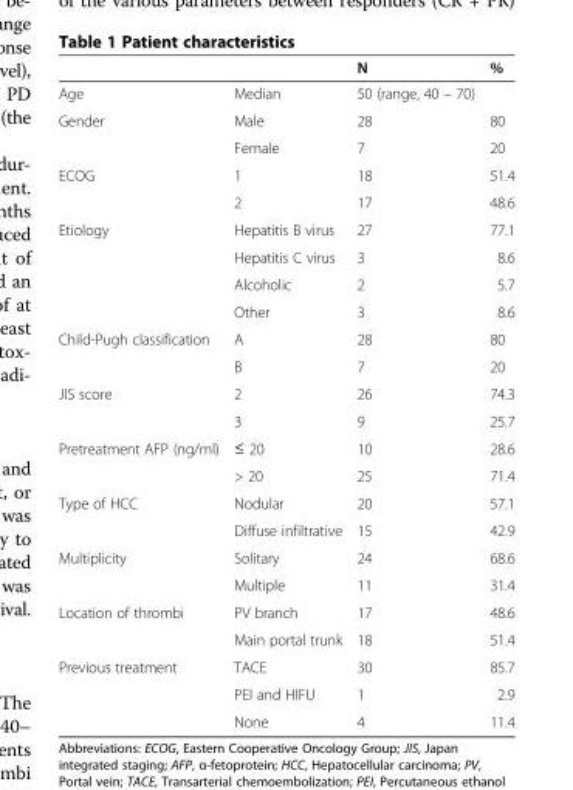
<table><thead><tr><td></td><td></td><td>N</td><td>%</td></tr></thead><tbody><tr><td>Age</td><td>Median</td><td>50 (range, 40 – 70)</td><td></td></tr><tr><td rowspan="2">Gender</td><td>Male</td><td>28</td><td>80</td></tr><tr><td>Female</td><td>7</td><td>20</td></tr><tr><td rowspan="2">ECOG</td><td>1</td><td>18</td><td>51.4</td></tr><tr><td>2</td><td>17</td><td>48.6</td></tr><tr><td rowspan="4">Etiology</td><td>Hepatitis B virus</td><td>27</td><td>77.1</td></tr><tr><td>Hepatitis C virus</td><td>3</td><td>8.6</td></tr><tr><td>Alcoholic</td><td>2</td><td>5.7</td></tr><tr><td>Other</td><td>3</td><td>8.6</td></tr><tr><td rowspan="2">Child-Pugh classification</td><td>A</td><td>28</td><td>80</td></tr><tr><td>B</td><td>7</td><td>20</td></tr><tr><td rowspan="2">JIS score</td><td>2</td><td>26</td><td>74.3</td></tr><tr><td>3</td><td>9</td><td>25.7</td></tr><tr><td rowspan="2">Pretreatment AFP (ng/ml)</td><td>≤ 20</td><td>10</td><td>28.6</td></tr><tr><td>&gt; 20</td><td>25</td><td>71.4</td></tr><tr><td rowspan="2">Type of HCC</td><td>Nodular</td><td>20</td><td>57.1</td></tr><tr><td>Diffuse infiltrative</td><td>15</td><td>42.9</td></tr><tr><td rowspan="2">Multiplicity</td><td>Solitary</td><td>24</td><td>68.6</td></tr><tr><td>Multiple</td><td>11</td><td>31.4</td></tr><tr><td rowspan="2">Location of thrombi</td><td>PV branch</td><td>17</td><td>48.6</td></tr><tr><td>Main portal trunk</td><td>18</td><td>51.4</td></tr><tr><td rowspan="3">Previous treatment</td><td>TACE</td><td>30</td><td>85.7</td></tr><tr><td>PEI and HIFU</td><td>1</td><td>2.9</td></tr><tr><td>None</td><td>4</td><td>11.4</td></tr></tbody></table>